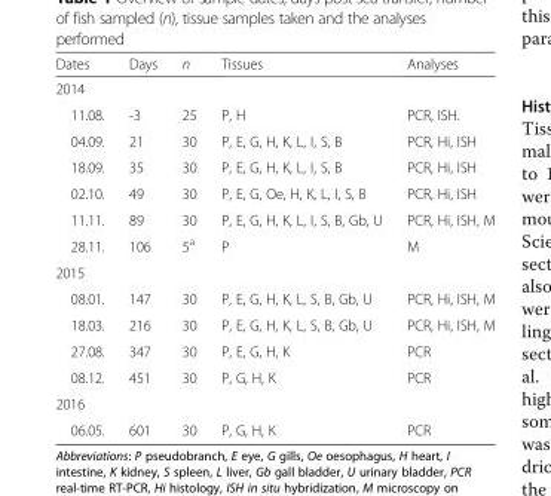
<table><thead><tr><td>Dates</td><td>Days</td><td>n</td><td>Tissues</td><td>Analyses</td></tr></thead><tbody><tr><td colspan="5">2014</td></tr><tr><td>11.08.</td><td>-3</td><td>25</td><td>P, H</td><td>PCR, ISH.</td></tr><tr><td>04.09.</td><td>21</td><td>30</td><td>P, E, G, H, K, L, I, S, B</td><td>PCR, Hi, ISH</td></tr><tr><td>18.09.</td><td>35</td><td>30</td><td>P, E, G, H, K, L, I, S, B</td><td>PCR, Hi, ISH</td></tr><tr><td>02.10.</td><td>49</td><td>30</td><td>P, E, G, Oe, H, K, L, I, S, B</td><td>PCR, Hi, ISH</td></tr><tr><td>11.11.</td><td>89</td><td>30</td><td>P, E, G, H, K, L, I, S, B, Gb, U</td><td>PCR, Hi, ISH, M</td></tr><tr><td>28.11.</td><td>106</td><td>5<sup>a</sup></td><td>P</td><td>M</td></tr><tr><td colspan="5">2015</td></tr><tr><td>08.01.</td><td>147</td><td>30</td><td>P, E, G, H, K, L, S, B, Gb, U</td><td>PCR, Hi, ISH, M</td></tr><tr><td>18.03.</td><td>216</td><td>30</td><td>P, E, G, H, K, L, S, B, Gb, U</td><td>PCR, Hi, ISH, M</td></tr><tr><td>27.08.</td><td>347</td><td>30</td><td>P, E, G, H, K</td><td>PCR</td></tr><tr><td>08.12.</td><td>451</td><td>30</td><td>P, G, H, K</td><td>PCR</td></tr><tr><td colspan="5">2016</td></tr><tr><td>06.05.</td><td>601</td><td>30</td><td>P, G, H, K</td><td>PCR</td></tr></tbody></table>